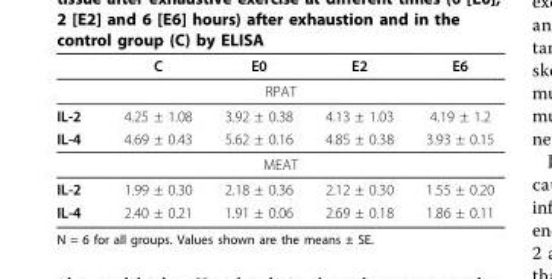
<table><thead><tr><td></td><td>C</td><td>E0</td><td>E2</td><td>E6</td></tr></thead><tbody><tr><td colspan="5">RPAT</td></tr><tr><td>IL-2</td><td>4.25 ± 1.08</td><td>3.92 ± 0.38</td><td>4.13 ± 1.03</td><td>4.19 ± 1.2</td></tr><tr><td>IL-4</td><td>4.69 ± 0.43</td><td>5.62 ± 0.16</td><td>4.85 ± 0.38</td><td>3.93 ± 0.15</td></tr><tr><td colspan="5">MEAT</td></tr><tr><td>IL-2</td><td>1.99 ± 0.30</td><td>2.18 ± 0.36</td><td>2.12 ± 0.30</td><td>1.55 ± 0.20</td></tr><tr><td>IL-4</td><td>2.40 ± 0.21</td><td>1.91 ± 0.06</td><td>2.69 ± 0.18</td><td>1.86 ± 0.11</td></tr></tbody></table>